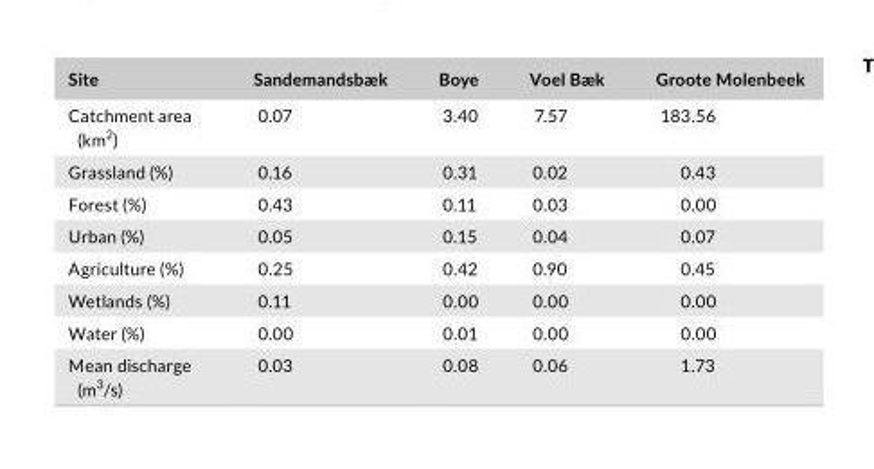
<table><thead><tr><td>Site</td><td>Sandemandsbæk</td><td>Boye</td><td>Voel Bæk</td><td>Groote Molenbeek</td></tr></thead><tbody><tr><td>Catchment area (km<sup>2</sup>)</td><td>0.07</td><td>3.40</td><td>7.57</td><td>183.56</td></tr><tr><td>Grassland (%)</td><td>0.16</td><td>0.31</td><td>0.02</td><td>0.43</td></tr><tr><td>Forest (%)</td><td>0.43</td><td>0.11</td><td>0.03</td><td>0.00</td></tr><tr><td>Urban (%)</td><td>0.05</td><td>0.15</td><td>0.04</td><td>0.07</td></tr><tr><td>Agriculture (%)</td><td>0.25</td><td>0.42</td><td>0.90</td><td>0.45</td></tr><tr><td>Wetlands (%)</td><td>0.11</td><td>0.00</td><td>0.00</td><td>0.00</td></tr><tr><td>Water (%)</td><td>0.00</td><td>0.01</td><td>0.00</td><td>0.00</td></tr><tr><td>Mean discharge (m<sup>3</sup>/s)</td><td>0.03</td><td>0.08</td><td>0.06</td><td>1.73</td></tr></tbody></table>